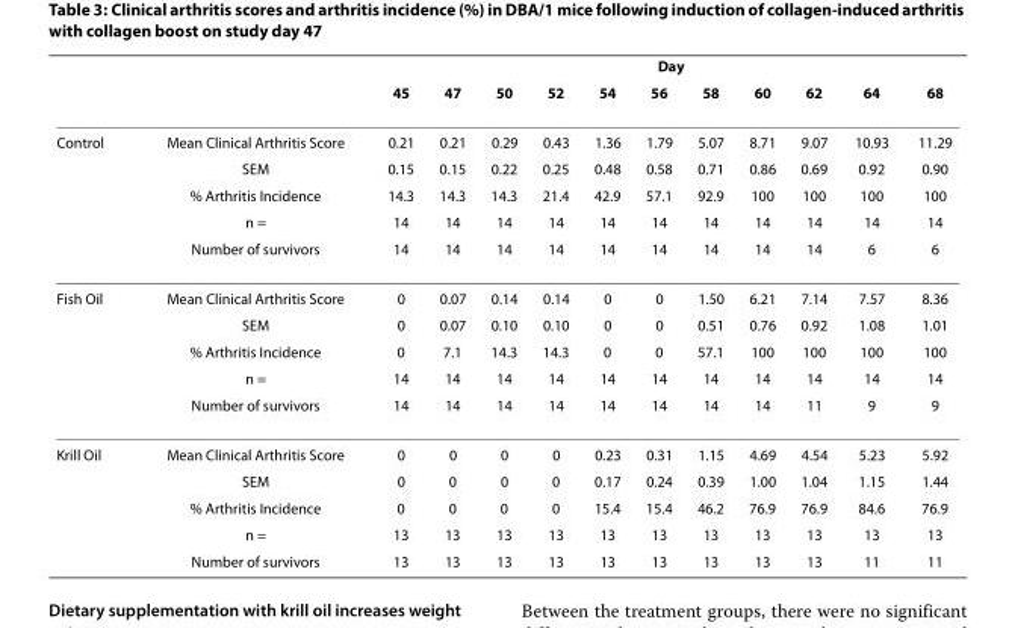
<table><thead><tr><td rowspan="2"></td><td rowspan="2"></td><td colspan="11">Day</td></tr><tr><td>45</td><td>47</td><td>50</td><td>52</td><td>54</td><td>56</td><td>58</td><td>60</td><td>62</td><td>64</td><td>68</td></tr></thead><tbody><tr><td rowspan="5">Control</td><td>Mean Clinical Arthritis Score</td><td>0.21</td><td>0.21</td><td>0.29</td><td>0.43</td><td>1.36</td><td>1.79</td><td>5.07</td><td>8.71</td><td>9.07</td><td>10.93</td><td>11.29</td></tr><tr><td>SEM</td><td>0.15</td><td>0.15</td><td>0.22</td><td>0.25</td><td>0.48</td><td>0.58</td><td>0.71</td><td>0.86</td><td>0.69</td><td>0.92</td><td>0.90</td></tr><tr><td>% Arthritis Incidence</td><td>14.3</td><td>14.3</td><td>14.3</td><td>21.4</td><td>42.9</td><td>57.1</td><td>92.9</td><td>100</td><td>100</td><td>100</td><td>100</td></tr><tr><td>n =</td><td>14</td><td>14</td><td>14</td><td>14</td><td>14</td><td>14</td><td>14</td><td>14</td><td>14</td><td>14</td><td>14</td></tr><tr><td>Number of survivors</td><td>14</td><td>14</td><td>14</td><td>14</td><td>14</td><td>14</td><td>14</td><td>14</td><td>14</td><td>6</td><td>6</td></tr><tr><td rowspan="5">Fish Oil</td><td>Mean Clinical Arthritis Score</td><td>0</td><td>0.07</td><td>0.14</td><td>0.14</td><td>0</td><td>0</td><td>1.50</td><td>6.21</td><td>7.14</td><td>7.57</td><td>8.36</td></tr><tr><td>SEM</td><td>0</td><td>0.07</td><td>0.10</td><td>0.10</td><td>0</td><td>0</td><td>0.51</td><td>0.76</td><td>0.92</td><td>1.08</td><td>1.01</td></tr><tr><td>% Arthritis Incidence</td><td>0</td><td>7.1</td><td>14.3</td><td>14.3</td><td>0</td><td>0</td><td>57.1</td><td>100</td><td>100</td><td>100</td><td>100</td></tr><tr><td>n =</td><td>14</td><td>14</td><td>14</td><td>14</td><td>14</td><td>14</td><td>14</td><td>14</td><td>14</td><td>14</td><td>14</td></tr><tr><td>Number of survivors</td><td>14</td><td>14</td><td>14</td><td>14</td><td>14</td><td>14</td><td>14</td><td>14</td><td>11</td><td>9</td><td>9</td></tr><tr><td rowspan="5">Krill Oil</td><td>Mean Clinical Arthritis Score</td><td>0</td><td>0</td><td>0</td><td>0</td><td>0.23</td><td>0.31</td><td>1.15</td><td>4.69</td><td>4.54</td><td>5.23</td><td>5.92</td></tr><tr><td>SEM</td><td>0</td><td>0</td><td>0</td><td>0</td><td>0.17</td><td>0.24</td><td>0.39</td><td>1.00</td><td>1.04</td><td>1.15</td><td>1.44</td></tr><tr><td>% Arthritis Incidence</td><td>0</td><td>0</td><td>0</td><td>0</td><td>15.4</td><td>15.4</td><td>46.2</td><td>76.9</td><td>76.9</td><td>84.6</td><td>76.9</td></tr><tr><td>n =</td><td>13</td><td>13</td><td>13</td><td>13</td><td>13</td><td>13</td><td>13</td><td>13</td><td>13</td><td>13</td><td>13</td></tr><tr><td>Number of survivors</td><td>13</td><td>13</td><td>13</td><td>13</td><td>13</td><td>13</td><td>13</td><td>13</td><td>13</td><td>11</td><td>11</td></tr></tbody></table>